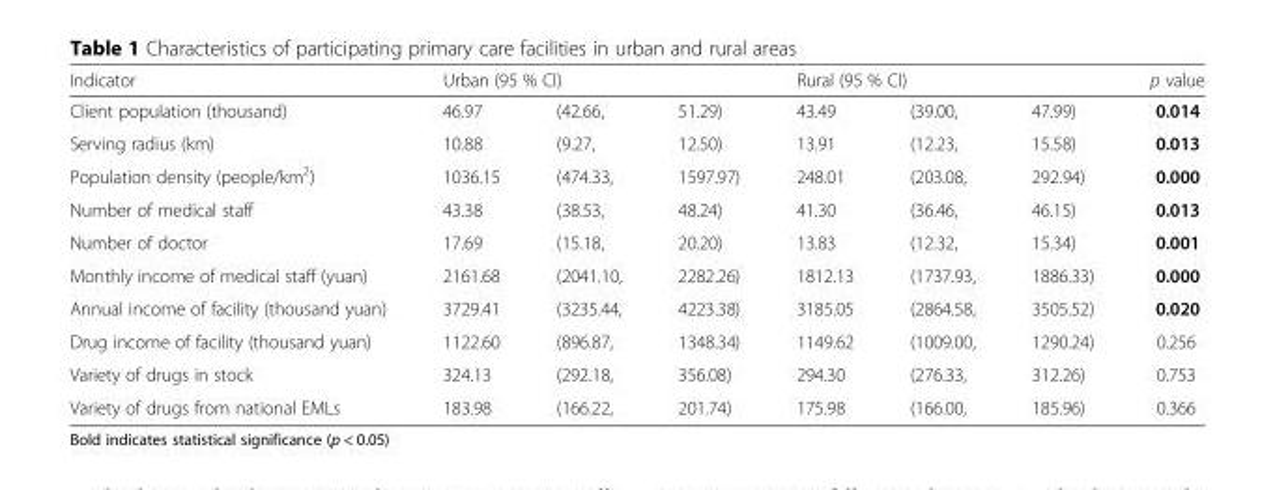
<table><thead><tr><td rowspan="2">Indicator Client population (thousand)</td><td colspan="3">Urban (95 % CI)</td><td colspan="3">Rural (95 % CI)</td><td rowspan="2">p value 0.014</td></tr><tr><td>46.97</td><td>(42.66,</td><td>51.29)</td><td>43.49</td><td>(39.00,</td><td>47.99)</td></tr></thead><tbody><tr><td>Serving radius (km)</td><td>10.88</td><td>(9.27,</td><td>12.50)</td><td>13.91</td><td>(12.23,</td><td>15.58)</td><td>0.013</td></tr><tr><td>Population density (people/km<sup>2</sup>)</td><td>1036.15</td><td>(474.33,</td><td>1597.97)</td><td>248.01</td><td>(203.08,</td><td>292.94)</td><td>0.000</td></tr><tr><td>Number of medical staff</td><td>43.38</td><td>(38.53,</td><td>48.24)</td><td>41.30</td><td>(36.46,</td><td>46.15)</td><td>0.013</td></tr><tr><td>Number of doctor</td><td>17.69</td><td>(15.18,</td><td>20.20)</td><td>13.83</td><td>(12.32,</td><td>15.34)</td><td>0.001</td></tr><tr><td>Monthly income of medical staff (yuan)</td><td>2161.68</td><td>(2041.10,</td><td>2282.26)</td><td>1812.13</td><td>(1737.93,</td><td>1886.33)</td><td>0.000</td></tr><tr><td>Annual income of facility (thousand yuan)</td><td>3729.41</td><td>(3235.44,</td><td>4223.38)</td><td>3185.05</td><td>(2864.58,</td><td>3505.52)</td><td>0.020</td></tr><tr><td>Drug income of facility (thousand yuan)</td><td>1122.60</td><td>(896.87,</td><td>1348.34)</td><td>1149.62</td><td>(1009.00,</td><td>1290.24)</td><td>0.256</td></tr><tr><td>Variety of drugs in stock</td><td>324.13</td><td>(292.18,</td><td>356.08)</td><td>294.30</td><td>(276.33,</td><td>312.26)</td><td>0.753</td></tr><tr><td>Variety of drugs from national EMLs</td><td>183.98</td><td>(166.22,</td><td>201.74)</td><td>175.98</td><td>(166.00,</td><td>185.96)</td><td>0.366</td></tr></tbody></table>